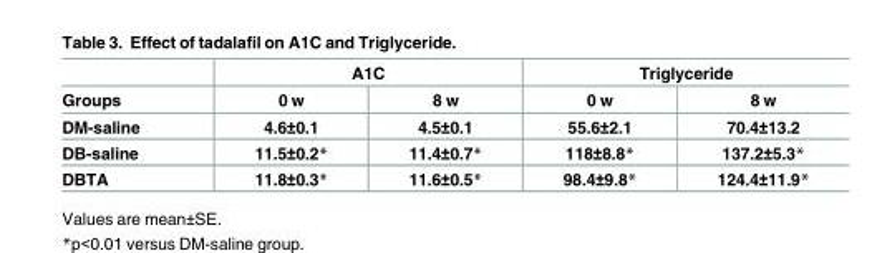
<table><thead><tr><td rowspan="2">Groups</td><td colspan="2">A1C</td><td colspan="2">Triglyceride</td></tr><tr><td>0 w</td><td>8 w</td><td>0 w</td><td>8 w</td></tr></thead><tbody><tr><td>DM-saline</td><td>4.6±0.1</td><td>4.5±0.1</td><td>55.6±2.1</td><td>70.4±13.2</td></tr><tr><td>DB-saline</td><td>11.5±0.2*</td><td>11.4±0.7*</td><td>118±8.8*</td><td>137.2±5.3*</td></tr><tr><td>DBTA</td><td>11.8±0.3*</td><td>11.6±0.5*</td><td>98.4±9.8*</td><td>124.4±11.9*</td></tr></tbody></table>